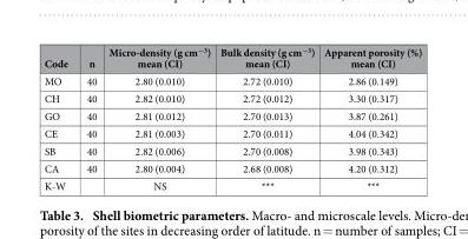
<table><thead><tr><td>Code</td><td>n</td><td>Micro-density (g cm<sup>−3</sup>) mean (CI)</td><td>Bulk density (g cm<sup>−3</sup>) mean (CI)</td><td>Apparent porosity (%) mean (CI)</td></tr></thead><tbody><tr><td>MO</td><td>40</td><td>2.80 (0.010)</td><td>2.72 (0.010)</td><td>2.86 (0.149)</td></tr><tr><td>CH</td><td>40</td><td>2.82 (0.010)</td><td>2.72 (0.012)</td><td>3.30 (0.317)</td></tr><tr><td>GO</td><td>40</td><td>2.81 (0.012)</td><td>2.70 (0.013)</td><td>3.87 (0.261)</td></tr><tr><td>CE</td><td>40</td><td>2.81 (0.003)</td><td>2.70 (0.011)</td><td>4.04 (0.342)</td></tr><tr><td>SB</td><td>40</td><td>2.82 (0.006)</td><td>2.70 (0.008)</td><td>3.98 (0.343)</td></tr><tr><td>CA</td><td>40</td><td>2.80 (0.004)</td><td>2.68 (0.008)</td><td>4.20 (0.312)</td></tr><tr><td>K-W</td><td></td><td>NS</td><td>***</td><td>***</td></tr></tbody></table>